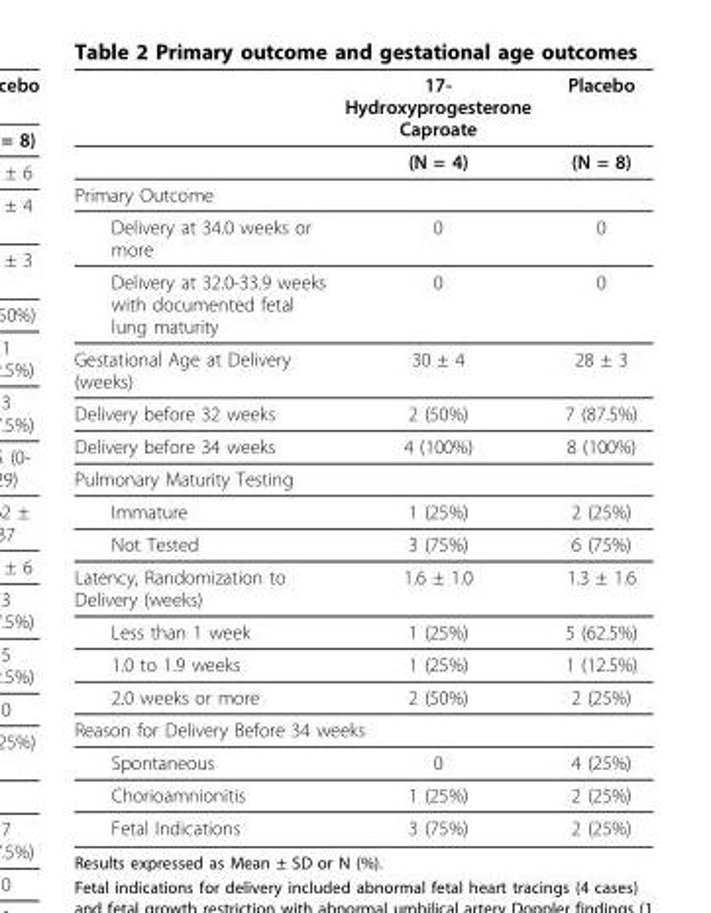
<table><thead><tr><td></td><td>17- Hydroxyprogesterone Caproate</td><td>Placebo</td></tr></thead><tbody><tr><td></td><td>(N = 4)</td><td>(N = 8)</td></tr><tr><td colspan="3">Primary Outcome</td></tr><tr><td>Delivery at 34.0 weeks or more</td><td>0</td><td>0</td></tr><tr><td>Delivery at 32.0-33.9 weeks with documented fetal lung maturity</td><td>0</td><td>0</td></tr><tr><td>Gestational Age at Delivery (weeks)</td><td>30 ± 4</td><td>28 ± 3</td></tr><tr><td>Delivery before 32 weeks</td><td>2 (50%)</td><td>7 (87.5%)</td></tr><tr><td>Delivery before 34 weeks</td><td>4 (100%)</td><td>8 (100%)</td></tr><tr><td colspan="3">Pulmonary Maturity Testing</td></tr><tr><td>Immature</td><td>1 (25%)</td><td>2 (25%)</td></tr><tr><td>Not Tested</td><td>3 (75%)</td><td>6 (75%)</td></tr><tr><td>Latency, Randomization to Delivery (weeks)</td><td>1.6 ± 1.0</td><td>1.3 ± 1.6</td></tr><tr><td>Less than 1 week</td><td>1 (25%)</td><td>5 (62.5%)</td></tr><tr><td>1.0 to 1.9 weeks</td><td>1 (25%)</td><td>1 (12.5%)</td></tr><tr><td>2.0 weeks or more</td><td>2 (50%)</td><td>2 (25%)</td></tr><tr><td colspan="3">Reason for Delivery Before 34 weeks</td></tr><tr><td>Spontaneous</td><td>0</td><td>4 (25%)</td></tr><tr><td>Chorioamnionitis</td><td>1 (25%)</td><td>2 (25%)</td></tr><tr><td>Fetal Indications</td><td>3 (75%)</td><td>2 (25%)</td></tr></tbody></table>